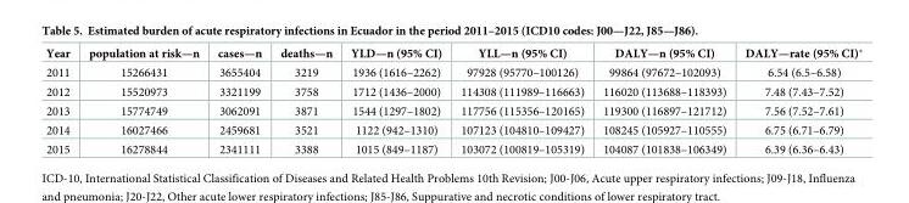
<table><thead><tr><td>Year</td><td>population at risk—n</td><td>cases—n</td><td>deaths—n</td><td>YLD—n (95% CI)</td><td>YLL—n (95% CI)</td><td>DALY—n (95% CI)</td><td>DALY—rate (95% CI)*</td></tr></thead><tbody><tr><td>2011</td><td>15266431</td><td>3655404</td><td>3219</td><td>1936 (1616–2262)</td><td>97928 (95770–100126)</td><td>99864 (97672–102093)</td><td>6.54 (6.5–6.58)</td></tr><tr><td>2012</td><td>15520973</td><td>3321199</td><td>3758</td><td>1712 (1436–2000)</td><td>114308 (111989–116663)</td><td>116020 (113688–118393)</td><td>7.48 (7.43–7.52)</td></tr><tr><td>2013</td><td>15774749</td><td>3062091</td><td>3871</td><td>1544 (1297–1802)</td><td>117756 (115356–120165)</td><td>119300 (116897–121712)</td><td>7.56 (7.52–7.61)</td></tr><tr><td>2014</td><td>16027466</td><td>2459681</td><td>3521</td><td>1122 (942–1310)</td><td>107123 (104810–109427)</td><td>108245 (105927–110555)</td><td>6.75 (6.71–6.79)</td></tr><tr><td>2015</td><td>16278844</td><td>2341111</td><td>3388</td><td>1015 (849–1187)</td><td>103072 (100819–105319)</td><td>104087 (101838–106349)</td><td>6.39 (6.36–6.43)</td></tr></tbody></table>